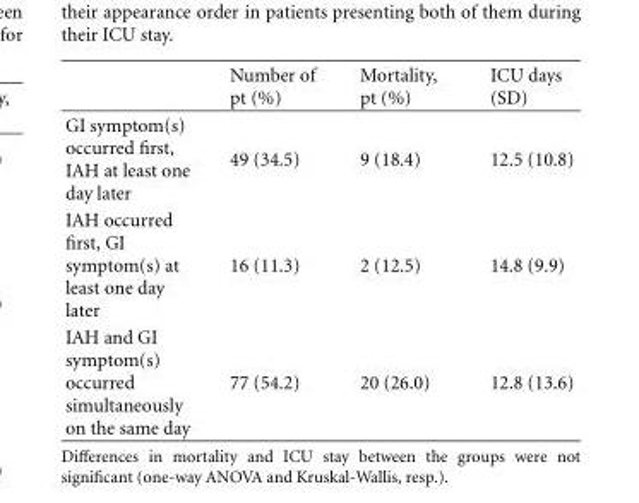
<table><thead><tr><td></td><td>Number of pt (%)</td><td>Mortality, pt (%)</td><td>ICU days (SD)</td></tr></thead><tbody><tr><td>GI symptom(s) occurred first, IAH at least one day later</td><td>49 (34.5)</td><td>9 (18.4)</td><td>12.5 (10.8)</td></tr><tr><td>IAH occurred first, GI symptom(s) at least one day later</td><td>16 (11.3)</td><td>2 (12.5)</td><td>14.8 (9.9)</td></tr><tr><td>IAH and GI symptom(s) occurred simultaneously on the same day</td><td>77 (54.2)</td><td>20 (26.0)</td><td>12.8 (13.6)</td></tr></tbody></table>